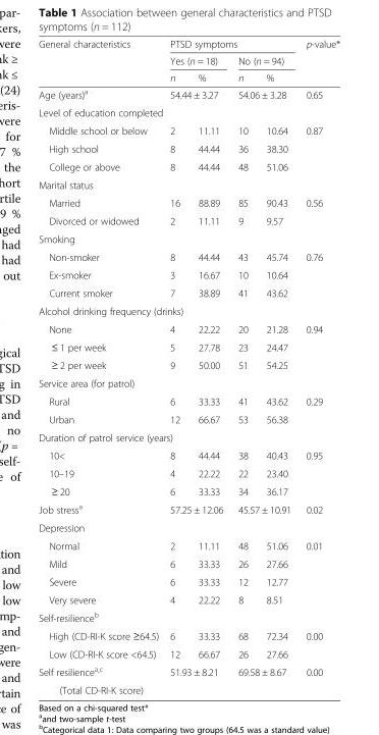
<table><thead><tr><td rowspan="3">General characteristics</td><td colspan="4">PTSD symptoms</td><td rowspan="3">p-value*</td></tr><tr><td colspan="2">Yes (n = 18)</td><td colspan="2">No (n = 94)</td></tr><tr><td>n</td><td>%</td><td>n</td><td>%</td></tr></thead><tbody><tr><td>Age (years)<sup>a</sup></td><td colspan="2">54.44 ± 3.27</td><td colspan="2">54.06 ± 3.28</td><td>0.65</td></tr><tr><td colspan="6">Level of education completed</td></tr><tr><td>Middle school or below</td><td>2</td><td>11.11</td><td>10</td><td>10.64</td><td>0.87</td></tr><tr><td>High school</td><td>8</td><td>44.44</td><td>36</td><td>38.30</td><td></td></tr><tr><td>College or above</td><td>8</td><td>44.44</td><td>48</td><td>51.06</td><td></td></tr><tr><td colspan="6">Marital status</td></tr><tr><td>Married</td><td>16</td><td>88.89</td><td>85</td><td>90.43</td><td>0.56</td></tr><tr><td>Divorced or widowed</td><td>2</td><td>11.11</td><td>9</td><td>9.57</td><td></td></tr><tr><td colspan="6">Smoking</td></tr><tr><td>Non-smoker</td><td>8</td><td>44.44</td><td>43</td><td>45.74</td><td>0.76</td></tr><tr><td>Ex-smoker</td><td>3</td><td>16.67</td><td>10</td><td>10.64</td><td></td></tr><tr><td>Current smoker</td><td>7</td><td>38.89</td><td>41</td><td>43.62</td><td></td></tr><tr><td colspan="6">Alcohol drinking frequency (drinks)</td></tr><tr><td>None</td><td>4</td><td>22.22</td><td>20</td><td>21.28</td><td>0.94</td></tr><tr><td>≤ 1 per week</td><td>5</td><td>27.78</td><td>23</td><td>24.47</td><td></td></tr><tr><td>≥ 2 per week</td><td>9</td><td>50.00</td><td>51</td><td>54.25</td><td></td></tr><tr><td colspan="6">Service area (for patrol)</td></tr><tr><td>Rural</td><td>6</td><td>33.33</td><td>41</td><td>43.62</td><td>0.29</td></tr><tr><td>Urban</td><td>12</td><td>66.67</td><td>53</td><td>56.38</td><td></td></tr><tr><td colspan="6">Duration of patrol service (years)</td></tr><tr><td>10&lt;</td><td>8</td><td>44.44</td><td>38</td><td>40.43</td><td>0.95</td></tr><tr><td>10–19</td><td>4</td><td>22.22</td><td>22</td><td>23.40</td><td></td></tr><tr><td>≥ 20</td><td>6</td><td>33.33</td><td>34</td><td>36.17</td><td></td></tr><tr><td>Job stress<sup>a</sup></td><td colspan="2">57.25 ± 12.06</td><td colspan="2">45.57 ± 10.91</td><td>0.02</td></tr><tr><td colspan="6">Depression</td></tr><tr><td>Normal</td><td>2</td><td>11.11</td><td>48</td><td>51.06</td><td>0.01</td></tr><tr><td>Mild</td><td>6</td><td>33.33</td><td>26</td><td>27.66</td><td></td></tr><tr><td>Severe</td><td>6</td><td>33.33</td><td>12</td><td>12.77</td><td></td></tr><tr><td>Very severe</td><td>4</td><td>22.22</td><td>8</td><td>8.51</td><td></td></tr><tr><td colspan="6">Self-resilience<sup>b</sup></td></tr><tr><td>High (CD-RI-K score ≥64.5)</td><td>6</td><td>33.33</td><td>68</td><td>72.34</td><td>0.00</td></tr><tr><td>Low (CD-RI-K score &lt;64.5)</td><td>12</td><td>66.67</td><td>26</td><td>27.66</td><td></td></tr><tr><td>Self resilience<sup>a</sup>·<sup>c</sup></td><td colspan="2">51.93 ± 8.21</td><td colspan="2">69.58 ± 8.67</td><td>0.00</td></tr><tr><td>(Total CD-RI-K score)</td><td></td><td></td><td></td><td></td><td></td></tr></tbody></table>